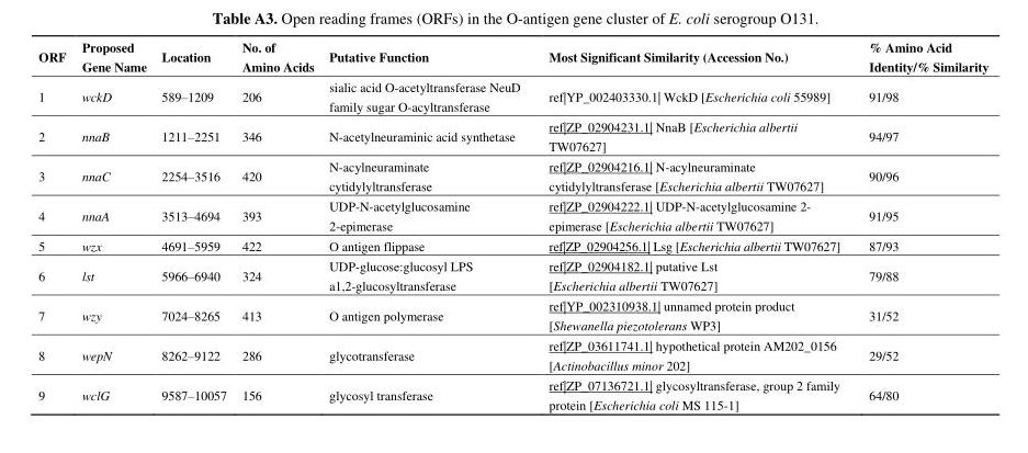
<table><thead><tr><td>ORF</td><td>Proposed Gene Name</td><td>Location</td><td>No. of Amino Acids</td><td>Putative Function</td><td>Most Significant Similarity (Accession No.)</td><td>% Amino Acid Identity/% Similarity</td></tr></thead><tbody><tr><td>1</td><td>wckD</td><td>589–1209</td><td>206</td><td>sialic acid O-acetyltransferase NeuD family sugar O-acyltransferase</td><td>ref|YP_002403330.1| WckD [Escherichia coli 55989]</td><td>91/98</td></tr><tr><td>2</td><td>nnaB</td><td>1211–2251</td><td>346</td><td>N-acetylneuraminic acid synthetase</td><td>ref|ZP_02904231.1| NnaB [Escherichia albertii TW07627]</td><td>94/97</td></tr><tr><td>3</td><td>nnaC</td><td>2254–3516</td><td>420</td><td>N-acylneuraminate cytidylyltransferase</td><td>ref|ZP_02904216.1| N-acylneuraminate cytidylyltransferase [Escherichia albertii TW07627]</td><td>90/96</td></tr><tr><td>4</td><td>nnaA</td><td>3513–4694</td><td>393</td><td>UDP-N-acetylglucosamine 2-epimerase</td><td>ref|ZP_02904222.1| UDP-N-acetylglucosamine 2- epimerase [Escherichia albertii TW07627]</td><td>91/95</td></tr><tr><td>5</td><td>wzx</td><td>4691–5959</td><td>422</td><td>O antigen flippase</td><td>ref|ZP_02904256.1| Lsg [Escherichia albertii TW07627]</td><td>87/93</td></tr><tr><td>6</td><td>lst</td><td>5966–6940</td><td>324</td><td>UDP-glucose:glucosyl LPS a1,2-glucosyltransferase</td><td>ref|ZP_02904182.1| putative Lst [Escherichia albertii TW07627]</td><td>79/88</td></tr><tr><td>7</td><td>wzy</td><td>7024–8265</td><td>413</td><td>O antigen polymerase</td><td>ref|YP_002310938.1| unnamed protein product [Shewanella piezotolerans WP3]</td><td>31/52</td></tr><tr><td>8</td><td>wepN</td><td>8262–9122</td><td>286</td><td>glycotransferase</td><td>ref|ZP_03611741.1| hypothetical protein AM202_0156 [Actinobacillus minor 202]</td><td>29/52</td></tr><tr><td>9</td><td>wclG</td><td>9587–10057</td><td>156</td><td>glycosyl transferase</td><td>ref|ZP_07136721.1| glycosyltransferase, group 2 family protein [Escherichia coli MS 115-1]</td><td>64/80</td></tr></tbody></table>